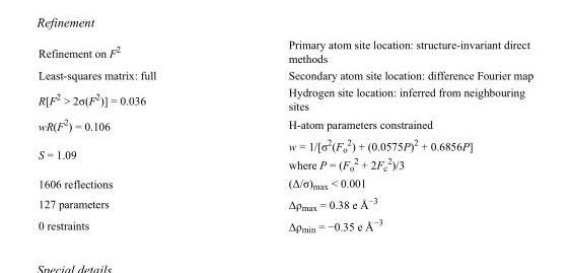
<table><tbody><tr><td>Refinement on F<sup>2</sup></td><td>Primary atom site location: structure-invariant direct methods</td></tr><tr><td>Least-squares matrix: full</td><td>Secondary atom site location: difference Fourier map</td></tr><tr><td>R[F<sup>2</sup> &gt; 2σ(F<sup>2</sup>)] = 0.036</td><td>Hydrogen site location: inferred from neighbouring sites</td></tr><tr><td>wR(F<sup>2</sup>) = 0.106</td><td>H-atom parameters constrained</td></tr><tr><td>S = 1.09</td><td>w = 1/[σ<sup>2</sup>(F<sub>o</sub> <sup>2</sup>) + (0.0575P)<sup>2</sup> + 0.6856P] where P = (F<sub>o</sub> <sup>2</sup> + 2F<sub>c</sub> <sup>2</sup>)/3</td></tr><tr><td>1606 reflections</td><td>(Δ/σ)<sub>max</sub> &lt; 0.001</td></tr><tr><td>127 parameters</td><td>Δρ<sub>max</sub> = 0.38 e Å<sup>−3</sup></td></tr><tr><td>0 restraints</td><td>Δρ<sub>min</sub> = −0.35 e Å<sup>−3</sup></td></tr></tbody></table>